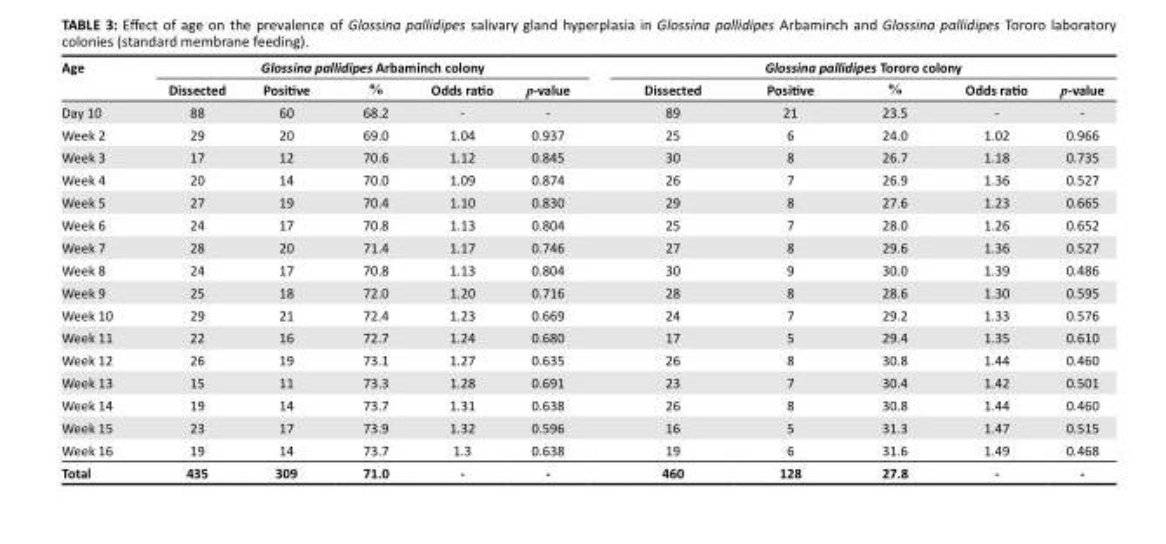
<table><thead><tr><td rowspan="2">Age</td><td colspan="5">Glossina pallidipes Arbaminch colony</td><td colspan="5">Glossina pallidipes Tororo colony</td></tr><tr><td>Dissected</td><td>Positive</td><td>%</td><td>Odds ratio</td><td>p-value</td><td>Dissected</td><td>Positive</td><td>%</td><td>Odds ratio</td><td>p-value</td></tr></thead><tbody><tr><td>Day 10</td><td>88</td><td>60</td><td>68.2</td><td>-</td><td>-</td><td>89</td><td>21</td><td>23.5</td><td>-</td><td>-</td></tr><tr><td>Week 2</td><td>29</td><td>20</td><td>69.0</td><td>1.04</td><td>0.937</td><td>25</td><td>6</td><td>24.0</td><td>1.02</td><td>0.966</td></tr><tr><td>Week 3</td><td>17</td><td>12</td><td>70.6</td><td>1.12</td><td>0.845</td><td>30</td><td>8</td><td>26.7</td><td>1.18</td><td>0.735</td></tr><tr><td>Week 4</td><td>20</td><td>14</td><td>70.0</td><td>1.09</td><td>0.874</td><td>26</td><td>7</td><td>26.9</td><td>1.36</td><td>0.527</td></tr><tr><td>Week 5</td><td>27</td><td>19</td><td>70.4</td><td>1.10</td><td>0.830</td><td>29</td><td>8</td><td>27.6</td><td>1.23</td><td>0.665</td></tr><tr><td>Week 6</td><td>24</td><td>17</td><td>70.8</td><td>1.13</td><td>0.804</td><td>25</td><td>7</td><td>28.0</td><td>1.26</td><td>0.652</td></tr><tr><td>Week 7</td><td>28</td><td>20</td><td>71.4</td><td>1.17</td><td>0.746</td><td>27</td><td>8</td><td>29.6</td><td>1.36</td><td>0.527</td></tr><tr><td>Week 8</td><td>24</td><td>17</td><td>70.8</td><td>1.13</td><td>0.804</td><td>30</td><td>9</td><td>30.0</td><td>1.39</td><td>0.486</td></tr><tr><td>Week 9</td><td>25</td><td>18</td><td>72.0</td><td>1.20</td><td>0.716</td><td>28</td><td>8</td><td>28.6</td><td>1.30</td><td>0.595</td></tr><tr><td>Week 10</td><td>29</td><td>21</td><td>72.4</td><td>1.23</td><td>0.669</td><td>24</td><td>7</td><td>29.2</td><td>1.33</td><td>0.576</td></tr><tr><td>Week 11</td><td>22</td><td>16</td><td>72.7</td><td>1.24</td><td>0.680</td><td>17</td><td>5</td><td>29.4</td><td>1.35</td><td>0.610</td></tr><tr><td>Week 12</td><td>26</td><td>19</td><td>73.1</td><td>1.27</td><td>0.635</td><td>26</td><td>8</td><td>30.8</td><td>1.44</td><td>0.460</td></tr><tr><td>Week 13</td><td>15</td><td>11</td><td>73.3</td><td>1.28</td><td>0.691</td><td>23</td><td>7</td><td>30.4</td><td>1.42</td><td>0.501</td></tr><tr><td>Week 14</td><td>19</td><td>14</td><td>73.7</td><td>1.31</td><td>0.638</td><td>26</td><td>8</td><td>30.8</td><td>1.44</td><td>0.460</td></tr><tr><td>Week 15</td><td>23</td><td>17</td><td>73.9</td><td>1.32</td><td>0.596</td><td>16</td><td>5</td><td>31.3</td><td>1.47</td><td>0.515</td></tr><tr><td>Week 16</td><td>19</td><td>14</td><td>73.7</td><td>1.3</td><td>0.638</td><td>19</td><td>6</td><td>31.6</td><td>1.49</td><td>0.468</td></tr><tr><td>Total</td><td>435</td><td>309</td><td>71.0</td><td>-</td><td>-</td><td>460</td><td>128</td><td>27.8</td><td>-</td><td>-</td></tr></tbody></table>